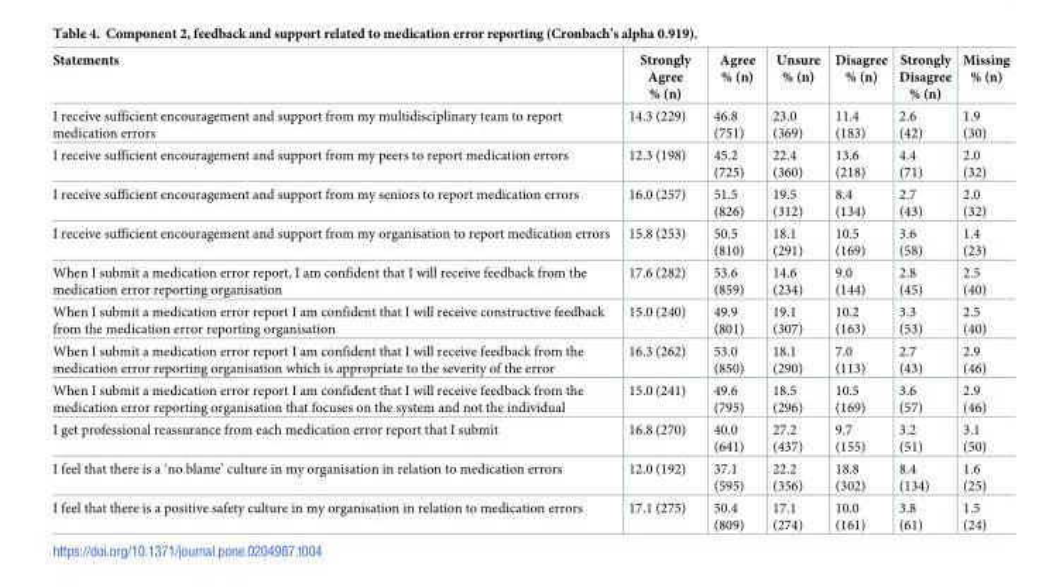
<table><thead><tr><td>Statements</td><td>Strongly Agree % (n)</td><td>Agree % (n)</td><td>Unsure % (n)</td><td>Disagree % (n)</td><td>Strongly Disagree % (n)</td><td>Missing % (n)</td></tr></thead><tbody><tr><td>I receive sufficient encouragement and support from my multidisciplinary team to report medication errors</td><td>14.3 (229)</td><td>46.8 (751)</td><td>23.0 (369)</td><td>11.4 (183)</td><td>2.6 (42)</td><td>1.9 (30)</td></tr><tr><td>I receive sufficient encouragement and support from my peers to report medication errors</td><td>12.3 (198)</td><td>45.2 (725)</td><td>22.4 (360)</td><td>13.6 (218)</td><td>4.4 (71)</td><td>2.0 (32)</td></tr><tr><td>I receive sufficient encouragement and support from my seniors to report medication errors</td><td>16.0 (257)</td><td>51.5 (826)</td><td>19.5 (312)</td><td>8.4 (134)</td><td>2.7 (43)</td><td>2.0 (32)</td></tr><tr><td>I receive sufficient encouragement and support from my organisation to report medication errors</td><td>15.8 (253)</td><td>50.5 (810)</td><td>18.1 (291)</td><td>10.5 (169)</td><td>3.6 (58)</td><td>1.4 (23)</td></tr><tr><td>When I submit a medication error report, I am confident that I will receive feedback from the medication error reporting organisation</td><td>17.6 (282)</td><td>53.6 (859)</td><td>14.6 (234)</td><td>9.0 (144)</td><td>2.8 (45)</td><td>2.5 (40)</td></tr><tr><td>When I submit a medication error report I am confident that I will receive constructive feedback from the medication error reporting organisation</td><td>15.0 (240)</td><td>49.9 (801)</td><td>19.1 (307)</td><td>10.2 (163)</td><td>3.3 (53)</td><td>2.5 (40)</td></tr><tr><td>When I submit a medication error report I am confident that I will receive feedback from the medication error reporting organisation which is appropriate to the severity of the error</td><td>16.3 (262)</td><td>53.0 (850)</td><td>18.1 (290)</td><td>7.0 (113)</td><td>2.7 (43)</td><td>2.9 (46)</td></tr><tr><td>When I submit a medication error report I am confident that I will receive feedback from the medication error reporting organisation that focuses on the system and not the individual</td><td>15.0 (241)</td><td>49.6 (795)</td><td>18.5 (296)</td><td>10.5 (169)</td><td>3.6 (57)</td><td>2.9 (46)</td></tr><tr><td>I get professional reassurance from each medication error report that I submit</td><td>16.8 (270)</td><td>40.0 (641)</td><td>27.2 (437)</td><td>9.7 (155)</td><td>3.2 (51)</td><td>3.1 (50)</td></tr><tr><td>I feel that there is a ‘no blame’ culture in my organisation in relation to medication errors</td><td>12.0 (192)</td><td>37.1 (595)</td><td>22.2 (356)</td><td>18.8 (302)</td><td>8.4 (134)</td><td>1.6 (25)</td></tr><tr><td>I feel that there is a positive safety culture in my organisation in relation to medication errors</td><td>17.1 (275)</td><td>50.4 (809)</td><td>17.1 (274)</td><td>10.0 (161)</td><td>3.8 (61)</td><td>1.5 (24)</td></tr></tbody></table>